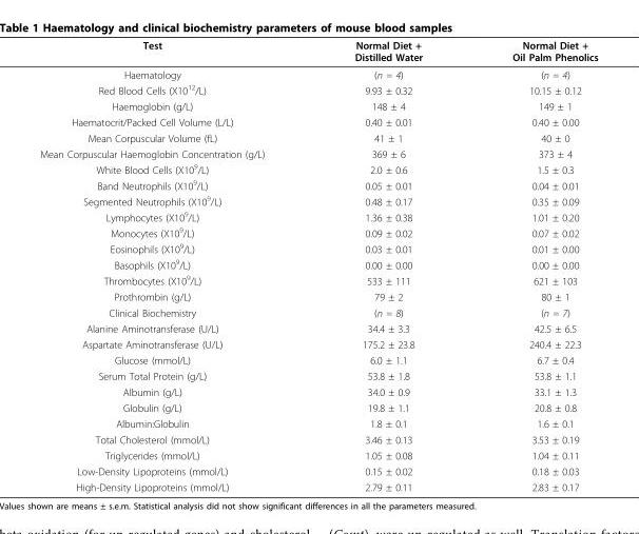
<table><thead><tr><td>Test</td><td>Normal Diet + Distilled Water</td><td>Normal Diet + Oil Palm Phenolics</td></tr></thead><tbody><tr><td>Haematology</td><td>(n = 4)</td><td>(n = 4)</td></tr><tr><td>Red Blood Cells (X10<sup>12</sup>/L)</td><td>9.93 ± 0.32</td><td>10.15 ± 0.12</td></tr><tr><td>Haemoglobin (g/L)</td><td>148 ± 4</td><td>149 ± 1</td></tr><tr><td>Haematocrit/Packed Cell Volume (L/L)</td><td>0.40 ± 0.01</td><td>0.40 ± 0.00</td></tr><tr><td>Mean Corpuscular Volume (fL)</td><td>41 ± 1</td><td>40 ± 0</td></tr><tr><td>Mean Corpuscular Haemoglobin Concentration (g/L)</td><td>369 ± 6</td><td>373 ± 4</td></tr><tr><td>White Blood Cells (X10<sup>9</sup>/L)</td><td>2.0 ± 0.6</td><td>1.5 ± 0.3</td></tr><tr><td>Band Neutrophils (X10<sup>9</sup>/L)</td><td>0.05 ± 0.01</td><td>0.04 ± 0.01</td></tr><tr><td>Segmented Neutrophils (X10<sup>9</sup>/L)</td><td>0.48 ± 0.17</td><td>0.35 ± 0.09</td></tr><tr><td>Lymphocytes (X10<sup>9</sup>/L)</td><td>1.36 ± 0.38</td><td>1.01 ± 0.20</td></tr><tr><td>Monocytes (X10<sup>9</sup>/L)</td><td>0.09 ± 0.02</td><td>0.07 ± 0.02</td></tr><tr><td>Eosinophils (X10<sup>9</sup>/L)</td><td>0.03 ± 0.01</td><td>0.01 ± 0.00</td></tr><tr><td>Basophils (X10<sup>9</sup>/L)</td><td>0.00 ± 0.00</td><td>0.00 ± 0.00</td></tr><tr><td>Thrombocytes (X10<sup>9</sup>/L)</td><td>533 ± 111</td><td>621 ± 103</td></tr><tr><td>Prothrombin (g/L)</td><td>79 ± 2</td><td>80 ± 1</td></tr><tr><td>Clinical Biochemistry</td><td>(n = 8)</td><td>(n = 7)</td></tr><tr><td>Alanine Aminotransferase (U/L)</td><td>34.4 ± 3.3</td><td>42.5 ± 6.5</td></tr><tr><td>Aspartate Aminotransferase (U/L)</td><td>175.2 ± 23.8</td><td>240.4 ± 22.3</td></tr><tr><td>Glucose (mmol/L)</td><td>6.0 ± 1.1</td><td>6.7 ± 0.4</td></tr><tr><td>Serum Total Protein (g/L)</td><td>53.8 ± 1.8</td><td>53.8 ± 1.1</td></tr><tr><td>Albumin (g/L)</td><td>34.0 ± 0.9</td><td>33.1 ± 1.3</td></tr><tr><td>Globulin (g/L)</td><td>19.8 ± 1.1</td><td>20.8 ± 0.8</td></tr><tr><td>Albumin:Globulin</td><td>1.8 ± 0.1</td><td>1.6 ± 0.1</td></tr><tr><td>Total Cholesterol (mmol/L)</td><td>3.46 ± 0.13</td><td>3.53 ± 0.19</td></tr><tr><td>Triglycerides (mmol/L)</td><td>1.05 ± 0.08</td><td>1.04 ± 0.11</td></tr><tr><td>Low-Density Lipoproteins (mmol/L)</td><td>0.15 ± 0.02</td><td>0.18 ± 0.03</td></tr><tr><td>High-Density Lipoproteins (mmol/L)</td><td>2.79 ± 0.11</td><td>2.83 ± 0.17</td></tr></tbody></table>